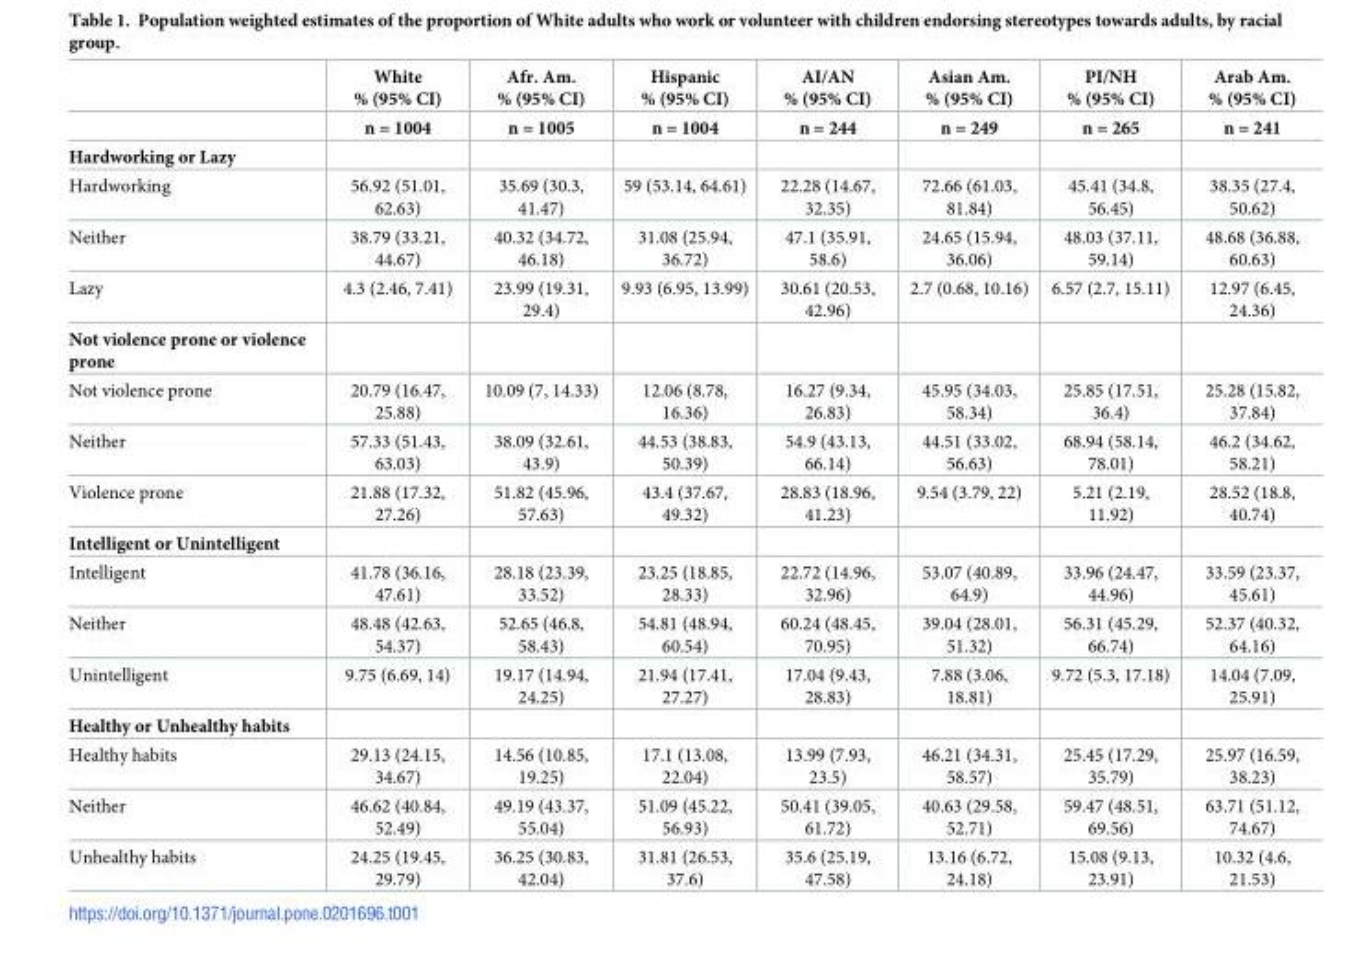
<table><thead><tr><td rowspan="2"></td><td rowspan="2">White % (95% CI) n = 1004</td><td rowspan="2">Afr. Am. % (95% CI) n = 1005</td><td rowspan="2">Hispanic % (95% CI) n = 1004</td><td rowspan="2">AI/AN % (95% CI) n = 244</td><td rowspan="2">Asian Am. % (95% CI) n = 249</td><td rowspan="2">PI/NH % (95% CI) n = 265</td><td rowspan="2">Arab Am. % (95% CI) n = 241</td></tr><tr></tr></thead><tbody><tr><td colspan="8">Hardworking or Lazy</td></tr><tr><td>Hardworking</td><td>56.92 (51.01, 62.63)</td><td>35.69 (30.3, 41.47)</td><td>59 (53.14, 64.61)</td><td>22.28 (14.67, 32.35)</td><td>72.66 (61.03, 81.84)</td><td>45.41 (34.8, 56.45)</td><td>38.35 (27.4, 50.62)</td></tr><tr><td>Neither</td><td>38.79 (33.21, 44.67)</td><td>40.32 (34.72, 46.18)</td><td>31.08 (25.94, 36.72)</td><td>47.1 (35.91, 58.6)</td><td>24.65 (15.94, 36.06)</td><td>48.03 (37.11, 59.14)</td><td>48.68 (36.88, 60.63)</td></tr><tr><td>Lazy</td><td>4.3 (2.46, 7.41)</td><td>23.99 (19.31, 29.4)</td><td>9.93 (6.95, 13.99)</td><td>30.61 (20.53, 42.96)</td><td>2.7 (0.68, 10.16)</td><td>6.57 (2.7, 15.11)</td><td>12.97 (6.45, 24.36)</td></tr><tr><td colspan="8">Not violence prone or violence prone</td></tr><tr><td>Not violence prone</td><td>20.79 (16.47, 25.88)</td><td>10.09 (7, 14.33)</td><td>12.06 (8.78, 16.36)</td><td>16.27 (9.34, 26.83)</td><td>45.95 (34.03, 58.34)</td><td>25.85 (17.51, 36.4)</td><td>25.28 (15.82, 37.84)</td></tr><tr><td>Neither</td><td>57.33 (51.43, 63.03)</td><td>38.09 (32.61, 43.9)</td><td>44.53 (38.83, 50.39)</td><td>54.9 (43.13, 66.14)</td><td>44.51 (33.02, 56.63)</td><td>68.94 (58.14, 78.01)</td><td>46.2 (34.62, 58.21)</td></tr><tr><td>Violence prone</td><td>21.88 (17.32, 27.26)</td><td>51.82 (45.96, 57.63)</td><td>43.4 (37.67, 49.32)</td><td>28.83 (18.96, 41.23)</td><td>9.54 (3.79, 22)</td><td>5.21 (2.19, 11.92)</td><td>28.52 (18.8, 40.74)</td></tr><tr><td colspan="8">Intelligent or Unintelligent</td></tr><tr><td>Intelligent</td><td>41.78 (36.16, 47.61)</td><td>28.18 (23.39, 33.52)</td><td>23.25 (18.85, 28.33)</td><td>22.72 (14.96, 32.96)</td><td>53.07 (40.89, 64.9)</td><td>33.96 (24.47, 44.96)</td><td>33.59 (23.37, 45.61)</td></tr><tr><td>Neither</td><td>48.48 (42.63, 54.37)</td><td>52.65 (46.8, 58.43)</td><td>54.81 (48.94, 60.54)</td><td>60.24 (48.45, 70.95)</td><td>39.04 (28.01, 51.32)</td><td>56.31 (45.29, 66.74)</td><td>52.37 (40.32, 64.16)</td></tr><tr><td>Unintelligent</td><td>9.75 (6.69, 14)</td><td>19.17 (14.94, 24.25)</td><td>21.94 (17.41, 27.27)</td><td>17.04 (9.43, 28.83)</td><td>7.88 (3.06, 18.81)</td><td>9.72 (5.3, 17.18)</td><td>14.04 (7.09, 25.91)</td></tr><tr><td colspan="8">Healthy or Unhealthy habits</td></tr><tr><td>Healthy habits</td><td>29.13 (24.15, 34.67)</td><td>14.56 (10.85, 19.25)</td><td>17.1 (13.08, 22.04)</td><td>13.99 (7.93, 23.5)</td><td>46.21 (34.31, 58.57)</td><td>25.45 (17.29, 35.79)</td><td>25.97 (16.59, 38.23)</td></tr><tr><td>Neither</td><td>46.62 (40.84, 52.49)</td><td>49.19 (43.37, 55.04)</td><td>51.09 (45.22, 56.93)</td><td>50.41 (39.05, 61.72)</td><td>40.63 (29.58, 52.71)</td><td>59.47 (48.51, 69.56)</td><td>63.71 (51.12, 74.67)</td></tr><tr><td>Unhealthy habits</td><td>24.25 (19.45, 29.79)</td><td>36.25 (30.83, 42.04)</td><td>31.81 (26.53, 37.6)</td><td>35.6 (25.19, 47.58)</td><td>13.16 (6.72, 24.18)</td><td>15.08 (9.13, 23.91)</td><td>10.32 (4.6, 21.53)</td></tr></tbody></table>